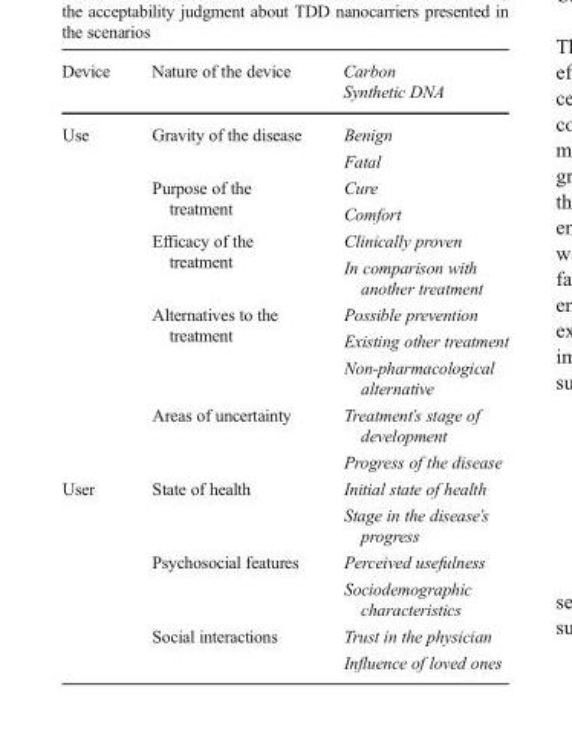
<table><thead><tr><td rowspan="2">Device</td><td rowspan="2">Nature of the device</td><td rowspan="2">Carbon Synthetic DNA</td></tr><tr></tr></thead><tbody><tr><td rowspan="11">Use</td><td rowspan="2">Gravity of the disease</td><td>Benign</td></tr><tr><td>Fatal</td></tr><tr><td rowspan="2">Purpose of the treatment</td><td>Cure</td></tr><tr><td>Comfort</td></tr><tr><td rowspan="2">Efficacy of the treatment</td><td>Clinically proven</td></tr><tr><td>In comparison with another treatment</td></tr><tr><td rowspan="3">Alternatives to the treatment</td><td>Possible prevention</td></tr><tr><td>Existing other treatment</td></tr><tr><td>Non-pharmacological alternative</td></tr><tr><td rowspan="2">Areas of uncertainty</td><td>Treatment’s stage of development</td></tr><tr><td>Progress of the disease</td></tr><tr><td rowspan="6">User</td><td rowspan="2">State of health</td><td>Initial state of health</td></tr><tr><td>Stage in the disease’s progress</td></tr><tr><td rowspan="2">Psychosocial features</td><td>Perceived usefulness</td></tr><tr><td>Sociodemographic characteristics</td></tr><tr><td rowspan="2">Social interactions</td><td>Trust in the physician</td></tr><tr><td>Influence of loved ones</td></tr></tbody></table>